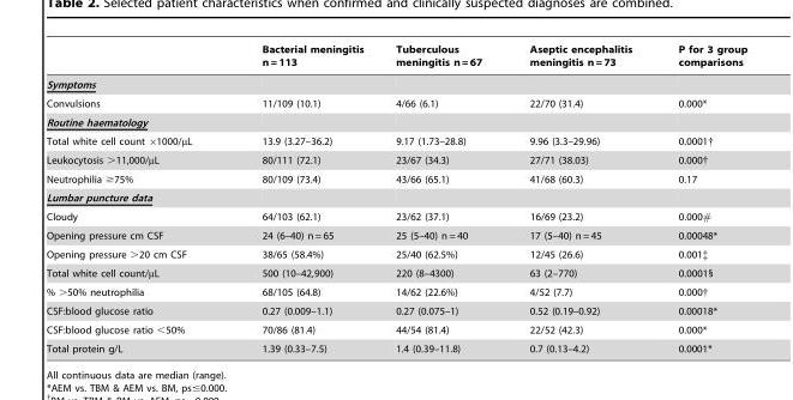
<table><thead><tr><td></td><td>Bacterial meningitis n = 113</td><td>Tuberculous meningitis n = 67</td><td>Aseptic encephalitis meningitis n = 73</td><td>P for 3 group comparisons</td></tr></thead><tbody><tr><td colspan="5">Symptoms</td></tr><tr><td>Convulsions</td><td>11/109 (10.1)</td><td>4/66 (6.1)</td><td>22/70 (31.4)</td><td>0.000*</td></tr><tr><td colspan="5">Routine haematology</td></tr><tr><td>Total white cell count ×1000/µL</td><td>13.9 (3.27–36.2)</td><td>9.17 (1.73–28.8)</td><td>9.96 (3.3–29.96)</td><td>0.0001†</td></tr><tr><td>Leukocytosis &gt;11,000/µL</td><td>80/111 (72.1)</td><td>23/67 (34.3)</td><td>27/71 (38.03)</td><td>0.000†</td></tr><tr><td>Neutrophilia ≥75%</td><td>80/109 (73.4)</td><td>43/66 (65.1)</td><td>41/68 (60.3)</td><td>0.17</td></tr><tr><td colspan="5">Lumbar puncture data</td></tr><tr><td>Cloudy</td><td>64/103 (62.1)</td><td>23/62 (37.1)</td><td>16/69 (23.2)</td><td>0.000#</td></tr><tr><td>Opening pressure cm CSF</td><td>24 (6–40) n = 65</td><td>25 (5–40) n = 40</td><td>17 (5–40) n = 45</td><td>0.00048*</td></tr><tr><td>Opening pressure &gt;20 cm CSF</td><td>38/65 (58.4%)</td><td>25/40 (62.5%)</td><td>12/45 (26.6)</td><td>0.001‡</td></tr><tr><td>Total white cell count/µL</td><td>500 (10–42,900)</td><td>220 (8–4300)</td><td>63 (2–770)</td><td>0.0001§</td></tr><tr><td>% &gt;50% neutrophilia</td><td>68/105 (64.8)</td><td>14/62 (22.6%)</td><td>4/52 (7.7)</td><td>0.000†</td></tr><tr><td>CSF:blood glucose ratio</td><td>0.27 (0.009–1.1)</td><td>0.27 (0.075–1)</td><td>0.52 (0.19–0.92)</td><td>0.00018*</td></tr><tr><td>CSF:blood glucose ratio &lt;50%</td><td>70/86 (81.4)</td><td>44/54 (81.4)</td><td>22/52 (42.3)</td><td>0.000*</td></tr><tr><td>Total protein g/L</td><td>1.39 (0.33–7.5)</td><td>1.4 (0.39–11.8)</td><td>0.7 (0.13–4.2)</td><td>0.0001*</td></tr></tbody></table>